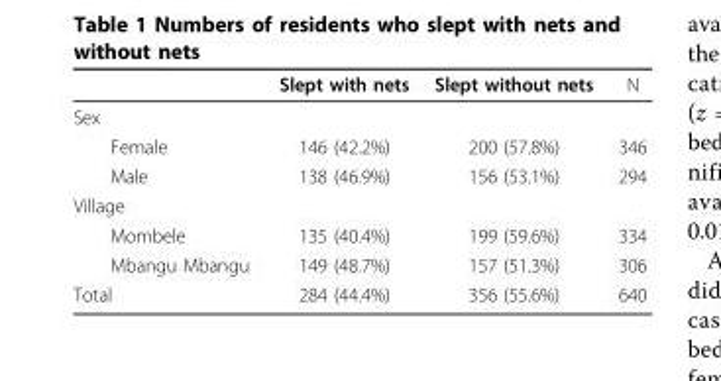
<table><thead><tr><td></td><td>Slept with nets</td><td>Slept without nets</td><td>N</td></tr></thead><tbody><tr><td colspan="4">Sex</td></tr><tr><td>Female</td><td>146 (42.2%)</td><td>200 (57.8%)</td><td>346</td></tr><tr><td>Male</td><td>138 (46.9%)</td><td>156 (53.1%)</td><td>294</td></tr><tr><td colspan="4">Village</td></tr><tr><td>Mombele</td><td>135 (40.4%)</td><td>199 (59.6%)</td><td>334</td></tr><tr><td>Mbangu Mbangu</td><td>149 (48.7%)</td><td>157 (51.3%)</td><td>306</td></tr><tr><td>Total</td><td>284 (44.4%)</td><td>356 (55.6%)</td><td>640</td></tr></tbody></table>